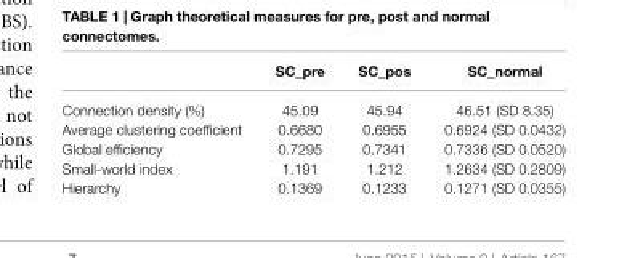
<table><thead><tr><td></td><td>SC_pre</td><td>SC_pos</td><td>SC_normal</td></tr></thead><tbody><tr><td>Connection density (%)</td><td>45.09</td><td>45.94</td><td>46.51 (SD 8.35)</td></tr><tr><td>Average clustering coefficient</td><td>0.6680</td><td>0.6955</td><td>0.6924 (SD 0.0432)</td></tr><tr><td>Global efficiency</td><td>0.7295</td><td>0.7341</td><td>0.7336 (SD 0.0520)</td></tr><tr><td>Small-world index</td><td>1.191</td><td>1.212</td><td>1.2634 (SD 0.2809)</td></tr><tr><td>Hierarchy</td><td>0.1369</td><td>0.1233</td><td>0.1271 (SD 0.0355)</td></tr></tbody></table>